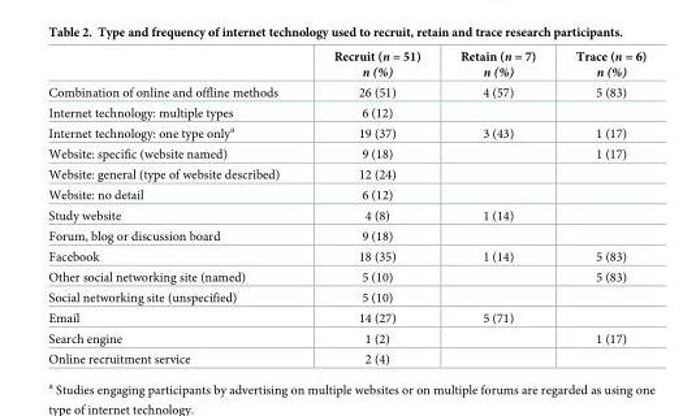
<table><thead><tr><td></td><td>Recruit (n = 51) n (%)</td><td>Retain (n = 7) n (%)</td><td>Trace (n = 6) n (%)</td></tr></thead><tbody><tr><td>Combination of online and offline methods</td><td>26 (51)</td><td>4 (57)</td><td>5 (83)</td></tr><tr><td>Internet technology: multiple types</td><td>6 (12)</td><td></td><td></td></tr><tr><td>Internet technology: one type only<sup>a</sup></td><td>19 (37)</td><td>3 (43)</td><td>1 (17)</td></tr><tr><td>Website: specific (website named)</td><td>9 (18)</td><td></td><td>1 (17)</td></tr><tr><td>Website: general (type of website described)</td><td>12 (24)</td><td></td><td></td></tr><tr><td>Website: no detail</td><td>6 (12)</td><td></td><td></td></tr><tr><td>Study website</td><td>4 (8)</td><td>1 (14)</td><td></td></tr><tr><td>Forum, blog or discussion board</td><td>9 (18)</td><td></td><td></td></tr><tr><td>Facebook</td><td>18 (35)</td><td>1 (14)</td><td>5 (83)</td></tr><tr><td>Other social networking site (named)</td><td>5 (10)</td><td></td><td>5 (83)</td></tr><tr><td>Social networking site (unspecified)</td><td>5 (10)</td><td></td><td></td></tr><tr><td>Email</td><td>14 (27)</td><td>5 (71)</td><td></td></tr><tr><td>Search engine</td><td>1 (2)</td><td></td><td>1 (17)</td></tr><tr><td>Online recruitment service</td><td>2 (4)</td><td></td><td></td></tr></tbody></table>